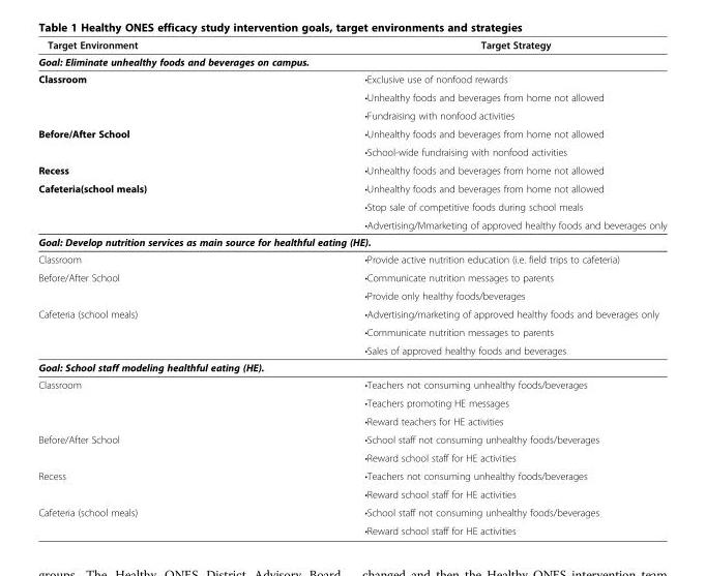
<table><thead><tr><td>Target Environment</td><td>Target Strategy</td></tr></thead><tbody><tr><td colspan="2">Goal: Eliminate unhealthy foods and beverages on campus.</td></tr><tr><td rowspan="3">Classroom</td><td>•Exclusive use of nonfood rewards</td></tr><tr><td>•Unhealthy foods and beverages from home not allowed</td></tr><tr><td>•Fundraising with nonfood activities</td></tr><tr><td rowspan="2">Before/After School</td><td>•Unhealthy foods and beverages from home not allowed</td></tr><tr><td>•School-wide fundraising with nonfood activities</td></tr><tr><td>Recess</td><td>•Unhealthy foods and beverages from home not allowed</td></tr><tr><td rowspan="3">Cafeteria(school meals)</td><td>•Unhealthy foods and beverages from home not allowed</td></tr><tr><td>•Stop sale of competitive foods during school meals</td></tr><tr><td>•Advertising/Mmarketing of approved healthy foods and beverages only</td></tr><tr><td colspan="2">Goal: Develop nutrition services as main source for healthful eating (HE).</td></tr><tr><td>Classroom</td><td>•Provide active nutrition education (i.e. field trips to cafeteria)</td></tr><tr><td rowspan="2">Before/After School</td><td>•Communicate nutrition messages to parents</td></tr><tr><td>•Provide only healthy foods/beverages</td></tr><tr><td rowspan="3">Cafeteria (school meals)</td><td>•Advertising/marketing of approved healthy foods and beverages only</td></tr><tr><td>•Communicate nutrition messages to parents</td></tr><tr><td>•Sales of approved healthy foods and beverages</td></tr><tr><td colspan="2">Goal: School staff modeling healthful eating (HE).</td></tr><tr><td rowspan="3">Classroom</td><td>•Teachers not consuming unhealthy foods/beverages</td></tr><tr><td>•Teachers promoting HE messages</td></tr><tr><td>•Reward teachers for HE activities</td></tr><tr><td rowspan="2">Before/After School</td><td>•School staff not consuming unhealthy foods/beverages</td></tr><tr><td>•Reward school staff for HE activities</td></tr><tr><td rowspan="2">Recess</td><td>•Teachers not consuming unhealthy foods/beverages</td></tr><tr><td>•Reward school staff for HE activities</td></tr><tr><td rowspan="2">Cafeteria (school meals)</td><td>•School staff not consuming unhealthy foods/beverages</td></tr><tr><td>•Reward school staff for HE activities</td></tr></tbody></table>